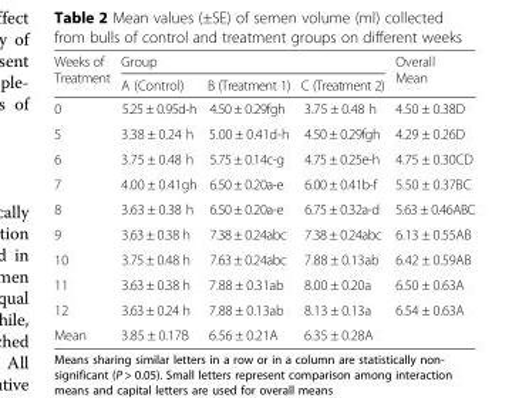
<table><thead><tr><td rowspan="2">Weeks of Treatment</td><td colspan="3">Group</td><td rowspan="2">Overall Mean</td></tr><tr><td>A (Control)</td><td>B (Treatment 1)</td><td>C (Treatment 2)</td></tr></thead><tbody><tr><td>0</td><td>5.25 ± 0.95d-h</td><td>4.50 ± 0.29fgh</td><td>3.75 ± 0.48 h</td><td>4.50 ± 0.38D</td></tr><tr><td>5</td><td>3.38 ± 0.24 h</td><td>5.00 ± 0.41d-h</td><td>4.50 ± 0.29fgh</td><td>4.29 ± 0.26D</td></tr><tr><td>6</td><td>3.75 ± 0.48 h</td><td>5.75 ± 0.14c-g</td><td>4.75 ± 0.25e-h</td><td>4.75 ± 0.30CD</td></tr><tr><td>7</td><td>4.00 ± 0.41gh</td><td>6.50 ± 0.20a-e</td><td>6.00 ± 0.41b-f</td><td>5.50 ± 0.37BC</td></tr><tr><td>8</td><td>3.63 ± 0.38 h</td><td>6.50 ± 0.20a-e</td><td>6.75 ± 0.32a-d</td><td>5.63 ± 0.46ABC</td></tr><tr><td>9</td><td>3.63 ± 0.38 h</td><td>7.38 ± 0.24abc</td><td>7.38 ± 0.24abc</td><td>6.13 ± 0.55AB</td></tr><tr><td>10</td><td>3.75 ± 0.48 h</td><td>7.63 ± 0.24abc</td><td>7.88 ± 0.13ab</td><td>6.42 ± 0.59AB</td></tr><tr><td>11</td><td>3.63 ± 0.38 h</td><td>7.88 ± 0.31ab</td><td>8.00 ± 0.20a</td><td>6.50 ± 0.63A</td></tr><tr><td>12</td><td>3.63 ± 0.24 h</td><td>7.88 ± 0.13ab</td><td>8.13 ± 0.13a</td><td>6.54 ± 0.63A</td></tr><tr><td>Mean</td><td>3.85 ± 0.17B</td><td>6.56 ± 0.21A</td><td>6.35 ± 0.28A</td><td></td></tr></tbody></table>